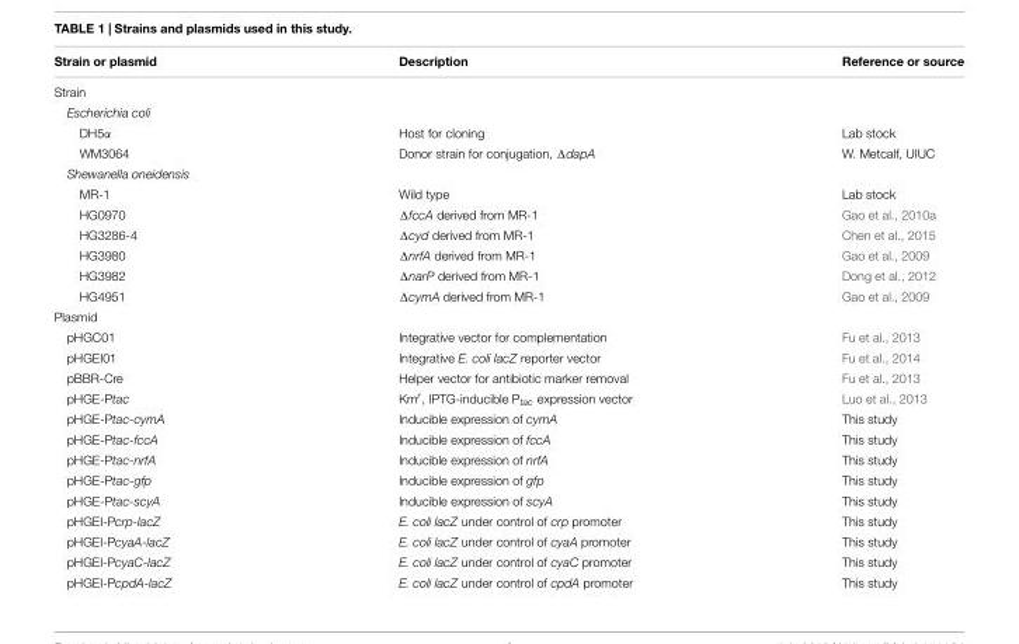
<table><thead><tr><td>Strain or plasmid</td><td>Description</td><td>Reference or source</td></tr></thead><tbody><tr><td colspan="3">Strain</td></tr><tr><td colspan="3">Escherichia coli</td></tr><tr><td>DH5α</td><td>Host for cloning</td><td>Lab stock</td></tr><tr><td>WM3064</td><td>Donor strain for conjugation, ΔdapA</td><td>W. Metcalf, UIUC</td></tr><tr><td colspan="3">Shewanella oneidensis</td></tr><tr><td>MR-1</td><td>Wild type</td><td>Lab stock</td></tr><tr><td>HG0970</td><td>ΔfccA derived from MR-1</td><td>Gao et al., 2010a</td></tr><tr><td>HG3286-4</td><td>Δcyd derived from MR-1</td><td>Chen et al., 2015</td></tr><tr><td>HG3980</td><td>ΔnrfA derived from MR-1</td><td>Gao et al., 2009</td></tr><tr><td>HG3982</td><td>ΔnarP derived from MR-1</td><td>Dong et al., 2012</td></tr><tr><td>HG4951</td><td>ΔcymA derived from MR-1</td><td>Gao et al., 2009</td></tr><tr><td colspan="3">Plasmid</td></tr><tr><td>pHGC01</td><td>Integrative vector for complementation</td><td>Fu et al., 2013</td></tr><tr><td>pHGEI01</td><td>Integrative E. coli lacZ reporter vector</td><td>Fu et al., 2014</td></tr><tr><td>pBBR-Cre</td><td>Helper vector for antibiotic marker removal</td><td>Fu et al., 2013</td></tr><tr><td>pHGE-Ptac</td><td>Km<sup>r</sup>, IPTG-inducible P<sub>tac</sub> expression vector</td><td>Luo et al., 2013</td></tr><tr><td>pHGE-Ptac-cymA</td><td>Inducible expression of cymA</td><td>This study</td></tr><tr><td>pHGE-Ptac-fccA</td><td>Inducible expression of fccA</td><td>This study</td></tr><tr><td>pHGE-Ptac-nrfA</td><td>Inducible expression of nrfA</td><td>This study</td></tr><tr><td>pHGE-Ptac-gfp</td><td>Inducible expression of gfp</td><td>This study</td></tr><tr><td>pHGE-Ptac-scyA</td><td>Inducible expression of scyA</td><td>This study</td></tr><tr><td>pHGEI-Pcrp-lacZ</td><td>E. coli lacZ under control of crp promoter</td><td>This study</td></tr><tr><td>pHGEI-PcyaA-lacZ</td><td>E. coli lacZ under control of cyaA promoter</td><td>This study</td></tr><tr><td>pHGEI-PcyaC-lacZ</td><td>E. coli lacZ under control of cyaC promoter</td><td>This study</td></tr><tr><td>pHGEI-PcpdA-lacZ</td><td>E. coli lacZ under control of cpdA promoter</td><td>This study</td></tr></tbody></table>